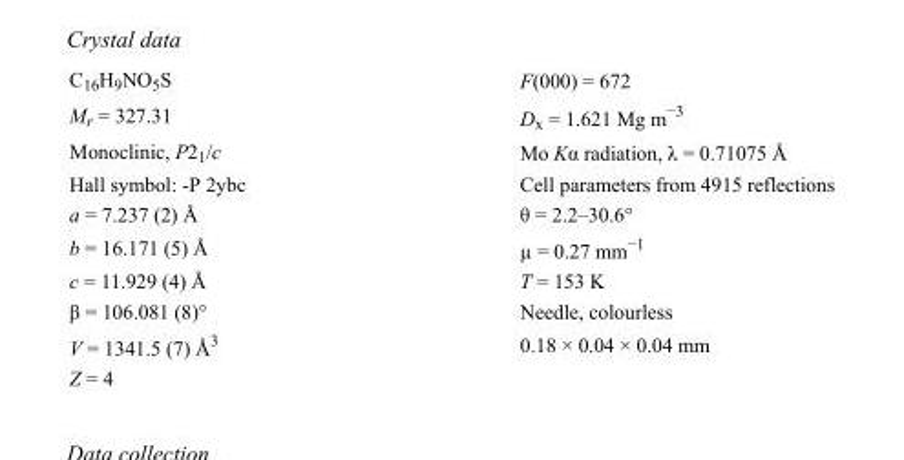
<table><tbody><tr><td>C<sub>16</sub>H<sub>9</sub>NO<sub>5</sub>S</td><td>F(000) = 672</td></tr><tr><td>M<sub>r</sub> = 327.31</td><td>D<sub>x</sub> = 1.621 Mg m<sup>−3</sup></td></tr><tr><td>Monoclinic, P2<sub>1</sub>/c</td><td>Mo Kα radiation, λ = 0.71075 Å</td></tr><tr><td>Hall symbol: -P 2ybc</td><td>Cell parameters from 4915 reflections</td></tr><tr><td>a = 7.237 (2) Å</td><td>θ = 2.2–30.6°</td></tr><tr><td>b = 16.171 (5) Å</td><td>µ = 0.27 mm<sup>−1</sup></td></tr><tr><td>c = 11.929 (4) Å</td><td>T = 153 K</td></tr><tr><td>β = 106.081 (8)°</td><td>Needle, colourless</td></tr><tr><td>V = 1341.5 (7) Å<sup>3</sup></td><td>0.18 × 0.04 × 0.04 mm</td></tr><tr><td>Z = 4</td><td></td></tr></tbody></table>